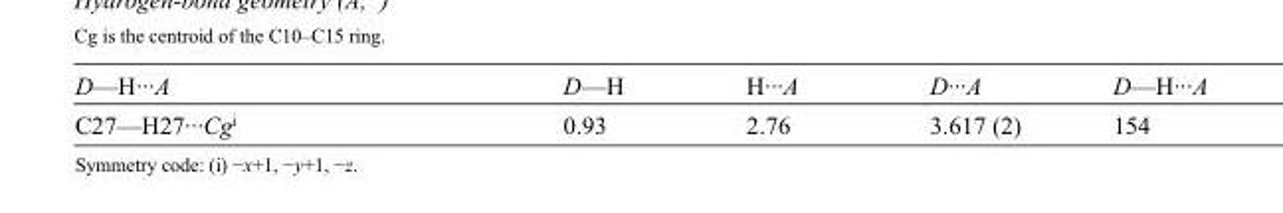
<table><tbody><tr><td>D—H···A</td><td>D—H</td><td>H···A</td><td>D···A</td><td>D—H···A</td></tr><tr><td>C27—H27···Cg<sup>i</sup></td><td>0.93</td><td>2.76</td><td>3.617 (2)</td><td>154</td></tr></tbody></table>